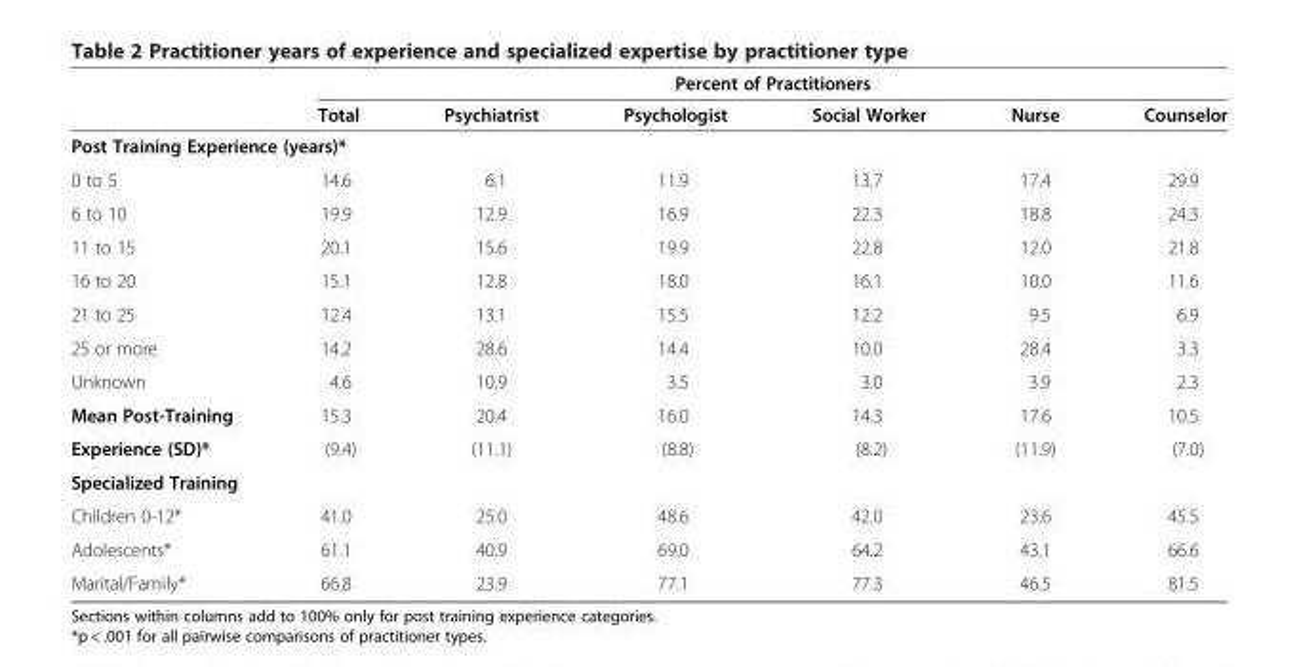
<table><thead><tr><td rowspan="2"></td><td colspan="6">Percent of Practitioners</td></tr><tr><td>Total</td><td>Psychiatrist</td><td>Psychologist</td><td>Social Worker</td><td>Nurse</td><td>Counselor</td></tr></thead><tbody><tr><td colspan="7">Post Training Experience (years)*</td></tr><tr><td>0 to 5</td><td>14.6</td><td>6.1</td><td>11.9</td><td>13.7</td><td>17.4</td><td>29.9</td></tr><tr><td>6 to 10</td><td>19.9</td><td>12.9</td><td>16.9</td><td>22.3</td><td>18.8</td><td>24.3</td></tr><tr><td>11 to 15</td><td>20.1</td><td>15.6</td><td>19.9</td><td>22.8</td><td>12.0</td><td>21.8</td></tr><tr><td>16 to 20</td><td>15.1</td><td>12.8</td><td>18.0</td><td>16.1</td><td>10.0</td><td>11.6</td></tr><tr><td>21 to 25</td><td>12.4</td><td>13.1</td><td>15.5</td><td>12.2</td><td>9.5</td><td>6.9</td></tr><tr><td>25 or more</td><td>14.2</td><td>28.6</td><td>14.4</td><td>10.0</td><td>28.4</td><td>3.3</td></tr><tr><td>Unknown</td><td>4.6</td><td>10.9</td><td>3.5</td><td>3.0</td><td>3.9</td><td>2.3</td></tr><tr><td>Mean Post-Training</td><td>15.3</td><td>20.4</td><td>16.0</td><td>14.3</td><td>17.6</td><td>10.5</td></tr><tr><td>Experience (SD)*</td><td>(9.4)</td><td>(11.1)</td><td>(8.8)</td><td>(8.2)</td><td>(11.9)</td><td>(7.0)</td></tr><tr><td colspan="7">Specialized Training</td></tr><tr><td>Children 0-12*</td><td>41.0</td><td>25.0</td><td>48.6</td><td>42.0</td><td>23.6</td><td>45.5</td></tr><tr><td>Adolescents*</td><td>61.1</td><td>40.9</td><td>69.0</td><td>64.2</td><td>43.1</td><td>66.6</td></tr><tr><td>Marital/Family*</td><td>66.8</td><td>23.9</td><td>77.1</td><td>77.3</td><td>46.5</td><td>81.5</td></tr></tbody></table>